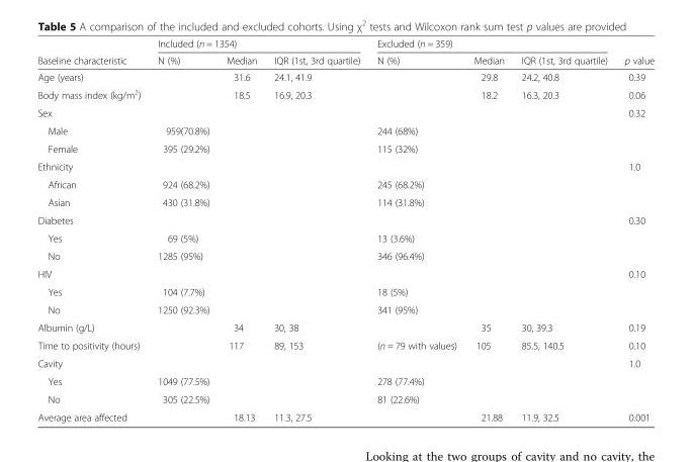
<table><thead><tr><td rowspan="2">Baseline characteristic</td><td colspan="3">Included (n = 1354)</td><td colspan="3">Excluded (n = 359)</td><td rowspan="2">p value</td></tr><tr><td>N (%)</td><td>Median</td><td>IQR (1st, 3rd quartile)</td><td>N (%)</td><td>Median</td><td>IQR (1st, 3rd quartile)</td></tr></thead><tbody><tr><td>Age (years)</td><td></td><td>31.6</td><td>24.1, 41.9</td><td></td><td>29.8</td><td>24.2, 40.8</td><td>0.39</td></tr><tr><td>Body mass index (kg/m<sup>2</sup>)</td><td></td><td>18.5</td><td>16.9, 20.3</td><td></td><td>18.2</td><td>16.3, 20.3</td><td>0.06</td></tr><tr><td>Sex</td><td></td><td></td><td></td><td></td><td></td><td></td><td>0.32</td></tr><tr><td>Male</td><td>959(70.8%)</td><td rowspan="2"></td><td rowspan="2"></td><td>244 (68%)</td><td rowspan="2"></td><td rowspan="2"></td><td rowspan="2"></td></tr><tr><td>Female</td><td>395 (29.2%)</td><td>115 (32%)</td></tr><tr><td>Ethnicity</td><td></td><td></td><td></td><td></td><td></td><td></td><td>1.0</td></tr><tr><td>African</td><td>924 (68.2%)</td><td rowspan="2"></td><td rowspan="2"></td><td>245 (68.2%)</td><td rowspan="2"></td><td rowspan="2"></td><td rowspan="2"></td></tr><tr><td>Asian</td><td>430 (31.8%)</td><td>114 (31.8%)</td></tr><tr><td>Diabetes</td><td></td><td></td><td></td><td></td><td></td><td></td><td>0.30</td></tr><tr><td>Yes</td><td>69 (5%)</td><td rowspan="2"></td><td rowspan="2"></td><td>13 (3.6%)</td><td rowspan="2"></td><td rowspan="2"></td><td rowspan="2"></td></tr><tr><td>No</td><td>1285 (95%)</td><td>346 (96.4%)</td></tr><tr><td>HIV</td><td></td><td></td><td></td><td></td><td></td><td></td><td>0.10</td></tr><tr><td>Yes</td><td>104 (7.7%)</td><td rowspan="2"></td><td rowspan="2"></td><td>18 (5%)</td><td rowspan="2"></td><td rowspan="2"></td><td rowspan="2"></td></tr><tr><td>No</td><td>1250 (92.3%)</td><td>341 (95%)</td></tr><tr><td>Albumin (g/L)</td><td></td><td>34</td><td>30, 38</td><td></td><td>35</td><td>30, 39.3</td><td>0.19</td></tr><tr><td>Time to positivity (hours)</td><td></td><td>117</td><td>89, 153</td><td>(n = 79 with values)</td><td>105</td><td>85.5, 140.5</td><td>0.10</td></tr><tr><td>Cavity</td><td></td><td></td><td></td><td></td><td></td><td></td><td>1.0</td></tr><tr><td>Yes</td><td>1049 (77.5%)</td><td rowspan="2"></td><td rowspan="2"></td><td>278 (77.4%)</td><td rowspan="2"></td><td rowspan="2"></td><td rowspan="2"></td></tr><tr><td>No</td><td>305 (22.5%)</td><td>81 (22.6%)</td></tr><tr><td>Average area affected</td><td></td><td>18.13</td><td>11.3, 27.5</td><td></td><td>21.88</td><td>11.9, 32.5</td><td>0.001</td></tr></tbody></table>